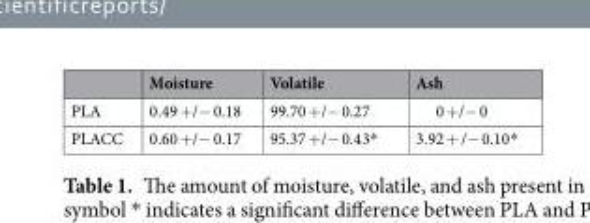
<table><thead><tr><td></td><td>Moisture</td><td>Volatile</td><td>Ash</td></tr></thead><tbody><tr><td>PLA</td><td>0.49 +/− 0.18</td><td>99.70 +/− 0.27</td><td>0 +/− 0</td></tr><tr><td>PLACC</td><td>0.60 +/− 0.17</td><td>95.37 +/− 0.43*</td><td>3.92 + /− 0.10*</td></tr></tbody></table>